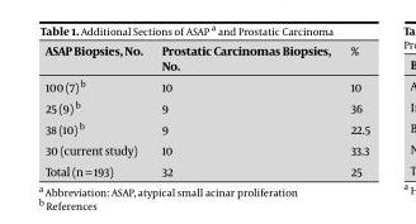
<table><thead><tr><td>ASAP Biopsies, No.</td><td>Prostatic Carcinomas Biopsies, No.</td><td>%</td></tr></thead><tbody><tr><td>100 (7) <sup>b</sup></td><td>10</td><td>10</td></tr><tr><td>25 (9) <sup>b</sup></td><td>9</td><td>36</td></tr><tr><td>38 (10) <sup>b</sup></td><td>9</td><td>22.5</td></tr><tr><td>30 (current study)</td><td>10</td><td>33.3</td></tr><tr><td>Total (n = 193)</td><td>32</td><td>25</td></tr></tbody></table>